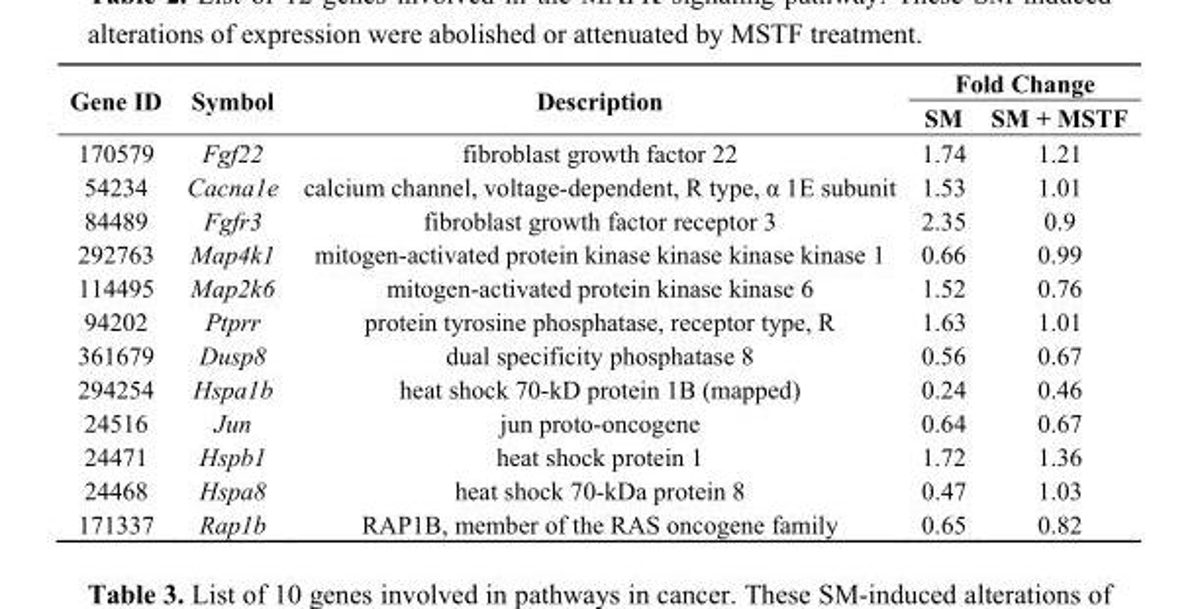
<table><thead><tr><td rowspan="2">Gene ID</td><td rowspan="2">Symbol</td><td rowspan="2">Description</td><td colspan="2">Fold Change</td></tr><tr><td>SM</td><td>SM + MSTF</td></tr></thead><tbody><tr><td>170579</td><td>Fgf22</td><td>fibroblast growth factor 22</td><td>1.74</td><td>1.21</td></tr><tr><td>54234</td><td>Cacna1e</td><td>calcium channel, voltage-dependent, R type, α 1E subunit</td><td>1.53</td><td>1.01</td></tr><tr><td>84489</td><td>Fgfr3</td><td>fibroblast growth factor receptor 3</td><td>2.35</td><td>0.9</td></tr><tr><td>292763</td><td>Map4k1</td><td>mitogen-activated protein kinase kinase kinase kinase 1</td><td>0.66</td><td>0.99</td></tr><tr><td>114495</td><td>Map2k6</td><td>mitogen-activated protein kinase kinase 6</td><td>1.52</td><td>0.76</td></tr><tr><td>94202</td><td>Ptprr</td><td>protein tyrosine phosphatase, receptor type, R</td><td>1.63</td><td>1.01</td></tr><tr><td>361679</td><td>Dusp8</td><td>dual specificity phosphatase 8</td><td>0.56</td><td>0.67</td></tr><tr><td>294254</td><td>Hspa1b</td><td>heat shock 70-kD protein 1B (mapped)</td><td>0.24</td><td>0.46</td></tr><tr><td>24516</td><td>Jun</td><td>jun proto-oncogene</td><td>0.64</td><td>0.67</td></tr><tr><td>24471</td><td>Hspb1</td><td>heat shock protein 1</td><td>1.72</td><td>1.36</td></tr><tr><td>24468</td><td>Hspa8</td><td>heat shock 70-kDa protein 8</td><td>0.47</td><td>1.03</td></tr><tr><td>171337</td><td>Rap1b</td><td>RAP1B, member of the RAS oncogene family</td><td>0.65</td><td>0.82</td></tr></tbody></table>